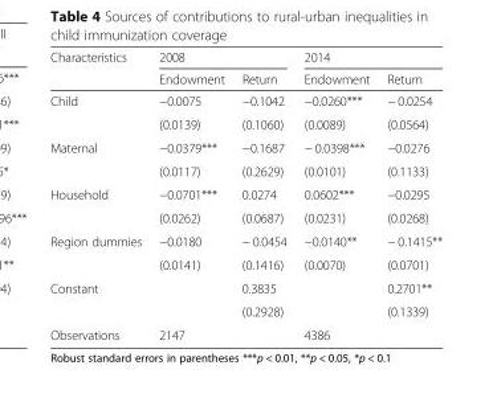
<table><thead><tr><td rowspan="2">Characteristics</td><td colspan="2">2008</td><td colspan="2">2014</td></tr><tr><td>Endowment</td><td>Return</td><td>Endowment</td><td>Return</td></tr></thead><tbody><tr><td rowspan="2">Child</td><td>−0.0075</td><td>−0.1042</td><td>−0.0260***</td><td>− 0.0254</td></tr><tr><td>(0.0139)</td><td>(0.1060)</td><td>(0.0089)</td><td>(0.0564)</td></tr><tr><td rowspan="2">Maternal</td><td>−0.0379***</td><td>−0.1687</td><td>− 0.0398***</td><td>−0.0276</td></tr><tr><td>(0.0117)</td><td>(0.2629)</td><td>(0.0101)</td><td>(0.1133)</td></tr><tr><td rowspan="2">Household</td><td>−0.0701***</td><td>0.0274</td><td>0.0602***</td><td>−0.0295</td></tr><tr><td>(0.0262)</td><td>(0.0687)</td><td>(0.0231)</td><td>(0.0268)</td></tr><tr><td rowspan="2">Region dummies</td><td>−0.0180</td><td>− 0.0454</td><td>−0.0140**</td><td>− 0.1415**</td></tr><tr><td>(0.0141)</td><td>(0.1416)</td><td>(0.0070)</td><td>(0.0701)</td></tr><tr><td rowspan="2">Constant</td><td></td><td>0.3835</td><td></td><td>0.2701**</td></tr><tr><td></td><td>(0.2928)</td><td></td><td>(0.1339)</td></tr><tr><td>Observations</td><td colspan="2">2147</td><td colspan="2">4386</td></tr></tbody></table>